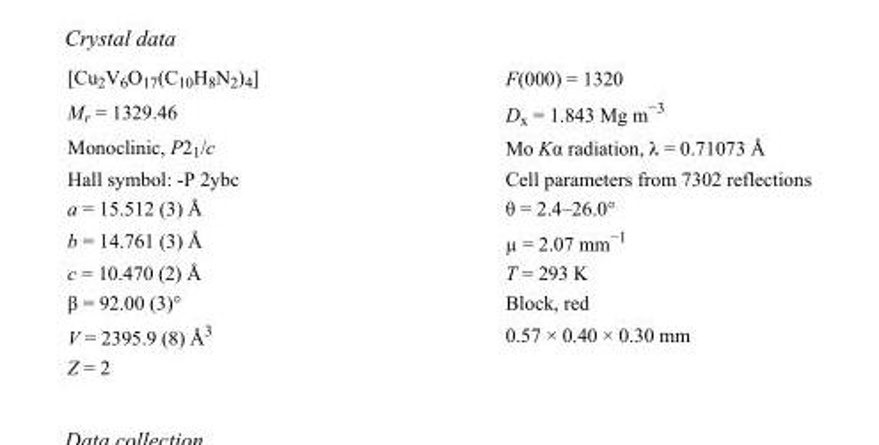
<table><tbody><tr><td>[Cu<sub>2</sub>V<sub>6</sub>O<sub>17</sub>(C<sub>10</sub>H<sub>8</sub>N<sub>2</sub>)<sub>4</sub>]</td><td>F(000) = 1320</td></tr><tr><td>M<sub>r</sub> = 1329.46</td><td>D<sub>x</sub> = 1.843 Mg m<sup>−3</sup></td></tr><tr><td>Monoclinic, P2<sub>1</sub>/c</td><td>Mo Kα radiation, λ = 0.71073 Å</td></tr><tr><td>Hall symbol: -P 2ybc</td><td>Cell parameters from 7302 reflections</td></tr><tr><td>a = 15.512 (3) Å</td><td>θ = 2.4–26.0°</td></tr><tr><td>b = 14.761 (3) Å</td><td>µ = 2.07 mm<sup>−1</sup></td></tr><tr><td>c = 10.470 (2) Å</td><td>T = 293 K</td></tr><tr><td>β = 92.00 (3)°</td><td>Block, red</td></tr><tr><td>V = 2395.9 (8) Å<sup>3</sup></td><td>0.57 × 0.40 × 0.30 mm</td></tr><tr><td>Z = 2</td><td></td></tr></tbody></table>